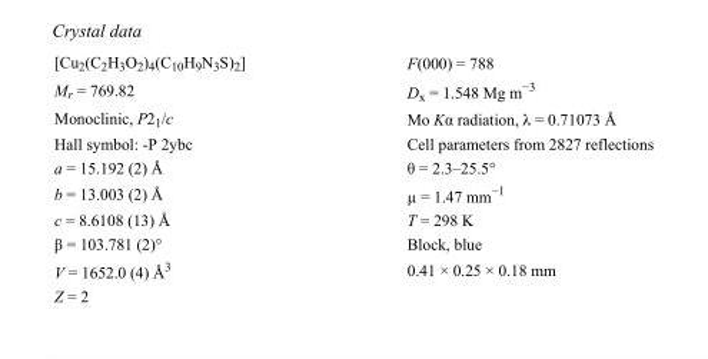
<table><tbody><tr><td>[Cu<sub>2</sub>(C<sub>2</sub>H<sub>3</sub>O<sub>2</sub>)<sub>4</sub>(C<sub>10</sub>H<sub>9</sub>N<sub>3</sub>S)<sub>2</sub>]</td><td>F(000) = 788</td></tr><tr><td>M<sub>r</sub> = 769.82</td><td>D<sub>x</sub> = 1.548 Mg m<sup>−3</sup></td></tr><tr><td>Monoclinic, P2<sub>1</sub>/c</td><td>Mo Kα radiation, λ = 0.71073 Å</td></tr><tr><td>Hall symbol: -P 2ybc</td><td>Cell parameters from 2827 reflections</td></tr><tr><td>a = 15.192 (2) Å</td><td>θ = 2.3–25.5°</td></tr><tr><td>b = 13.003 (2) Å</td><td>µ = 1.47 mm<sup>−1</sup></td></tr><tr><td>c = 8.6108 (13) Å</td><td>T = 298 K</td></tr><tr><td>β = 103.781 (2)°</td><td>Block, blue</td></tr><tr><td>V = 1652.0 (4) Å<sup>3</sup></td><td>0.41 × 0.25 × 0.18 mm</td></tr><tr><td>Z = 2</td><td></td></tr></tbody></table>